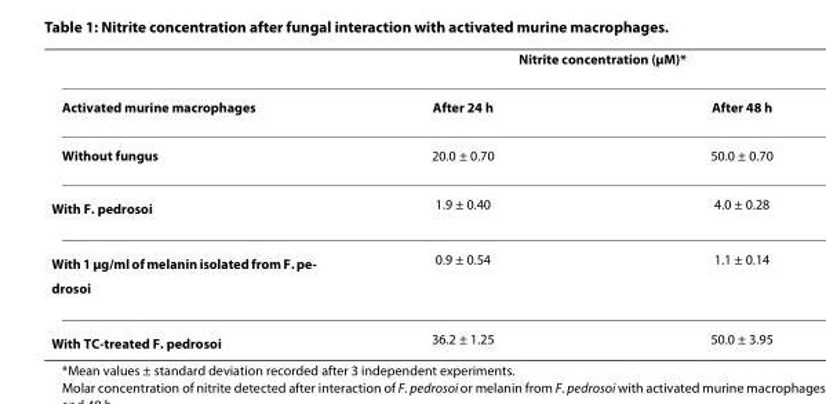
<table><thead><tr><td rowspan="2">Activated murine macrophages</td><td colspan="2">Nitrite concentration (μM)*</td></tr><tr><td>After 24 h</td><td>After 48 h</td></tr></thead><tbody><tr><td>Without fungus</td><td>20.0 ± 0.70</td><td>50.0 ± 0.70</td></tr><tr><td>With F. pedrosoi</td><td>1.9 ± 0.40</td><td>4.0 ± 0.28</td></tr><tr><td>With 1 μg/ml of melanin isolated from F. pe- drosoi</td><td>0.9 ± 0.54</td><td>1.1 ± 0.14</td></tr><tr><td>With TC-treated F. pedrosoi</td><td>36.2 ± 1.25</td><td>50.0 ± 3.95</td></tr></tbody></table>